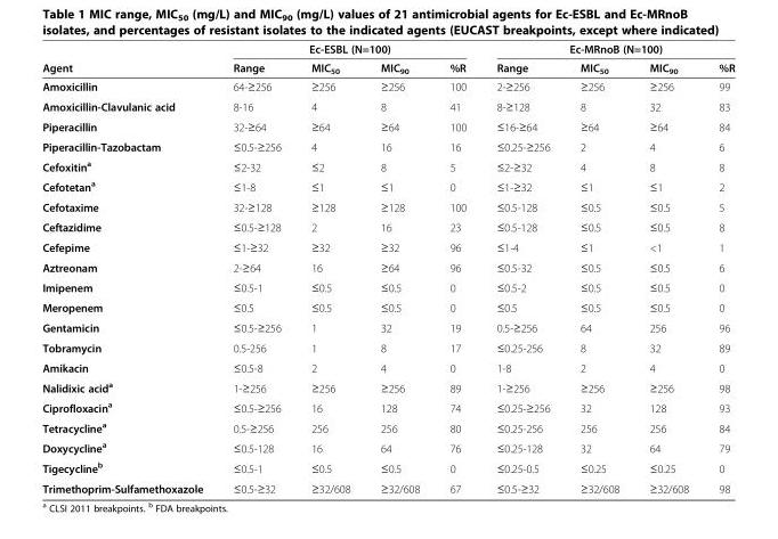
<table><thead><tr><td rowspan="2">Agent</td><td colspan="4">Ec-ESBL (N=100)</td><td colspan="4">Ec-MRnoB (N=100)</td></tr><tr><td>Range</td><td>MIC<sub>50</sub></td><td>MIC<sub>90</sub></td><td>%R</td><td>Range</td><td>MIC<sub>50</sub></td><td>MIC<sub>90</sub></td><td>%R</td></tr></thead><tbody><tr><td>Amoxicillin</td><td>64-≥256</td><td>≥256</td><td>≥256</td><td>100</td><td>2-≥256</td><td>≥256</td><td>≥256</td><td>99</td></tr><tr><td>Amoxicillin-Clavulanic acid</td><td>8-16</td><td>4</td><td>8</td><td>41</td><td>8-≥128</td><td>8</td><td>32</td><td>83</td></tr><tr><td>Piperacillin</td><td>32-≥64</td><td>≥64</td><td>≥64</td><td>100</td><td>≤16-≥64</td><td>≥64</td><td>≥64</td><td>84</td></tr><tr><td>Piperacillin-Tazobactam</td><td>≤0.5-≥256</td><td>4</td><td>16</td><td>16</td><td>≤0.25-≥256</td><td>2</td><td>4</td><td>6</td></tr><tr><td>Cefoxitin<sup>a</sup></td><td>≤2-32</td><td>≤2</td><td>8</td><td>5</td><td>≤2-≥32</td><td>4</td><td>8</td><td>8</td></tr><tr><td>Cefotetan<sup>a</sup></td><td>≤1-8</td><td>≤1</td><td>≤1</td><td>0</td><td>≤1-≥32</td><td>≤1</td><td>≤1</td><td>2</td></tr><tr><td>Cefotaxime</td><td>32-≥128</td><td>≥128</td><td>≥128</td><td>100</td><td>≤0.5-128</td><td>≤0.5</td><td>≤0.5</td><td>5</td></tr><tr><td>Ceftazidime</td><td>≤0.5-≥128</td><td>2</td><td>16</td><td>23</td><td>≤0.5-128</td><td>≤0.5</td><td>≤0.5</td><td>8</td></tr><tr><td>Cefepime</td><td>≤1-≥32</td><td>≥32</td><td>≥32</td><td>96</td><td>≤1-4</td><td>≤1</td><td>&lt;1</td><td>1</td></tr><tr><td>Aztreonam</td><td>2-≥64</td><td>16</td><td>≥64</td><td>96</td><td>≤0.5-32</td><td>≤0.5</td><td>≤0.5</td><td>6</td></tr><tr><td>Imipenem</td><td>≤0.5-1</td><td>≤0.5</td><td>≤0.5</td><td>0</td><td>≤0.5-2</td><td>≤0.5</td><td>≤0.5</td><td>0</td></tr><tr><td>Meropenem</td><td>≤0.5</td><td>≤0.5</td><td>≤0.5</td><td>0</td><td>≤0.5</td><td>≤0.5</td><td>≤0.5</td><td>0</td></tr><tr><td>Gentamicin</td><td>≤0.5-≥256</td><td>1</td><td>32</td><td>19</td><td>0.5-≥256</td><td>64</td><td>256</td><td>96</td></tr><tr><td>Tobramycin</td><td>0.5-256</td><td>1</td><td>8</td><td>17</td><td>≤0.25-256</td><td>8</td><td>32</td><td>89</td></tr><tr><td>Amikacin</td><td>≤0.5-8</td><td>2</td><td>4</td><td>0</td><td>1-8</td><td>2</td><td>4</td><td>0</td></tr><tr><td>Nalidixic acid<sup>a</sup></td><td>1-≥256</td><td>≥256</td><td>≥256</td><td>89</td><td>1-≥256</td><td>≥256</td><td>≥256</td><td>98</td></tr><tr><td>Ciprofloxacin<sup>a</sup></td><td>≤0.5-≥256</td><td>16</td><td>128</td><td>74</td><td>≤0.25-≥256</td><td>32</td><td>128</td><td>93</td></tr><tr><td>Tetracycline<sup>a</sup></td><td>0.5-≥256</td><td>256</td><td>256</td><td>80</td><td>≤0.25-256</td><td>256</td><td>256</td><td>84</td></tr><tr><td>Doxycycline<sup>a</sup></td><td>≤0.5-128</td><td>16</td><td>64</td><td>76</td><td>≤0.25-128</td><td>32</td><td>64</td><td>79</td></tr><tr><td>Tigecycline<sup>b</sup></td><td>≤0.5-1</td><td>≤0.5</td><td>≤0.5</td><td>0</td><td>≤0.25-0.5</td><td>≤0.25</td><td>≤0.25</td><td>0</td></tr><tr><td>Trimethoprim-Sulfamethoxazole</td><td>≤0.5-≥32</td><td>≥32/608</td><td>≥32/608</td><td>67</td><td>≤0.5-≥32</td><td>≥32/608</td><td>≥32/608</td><td>98</td></tr></tbody></table>